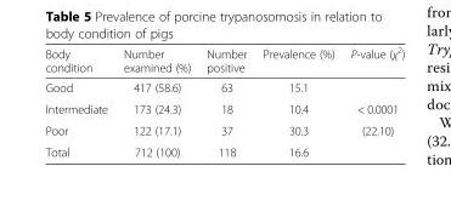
<table><thead><tr><td>Body condition</td><td>Number examined (%)</td><td>Number positive</td><td>Prevalence (%)</td><td>P-value (χ<sup>2</sup>)</td></tr></thead><tbody><tr><td>Good</td><td>417 (58.6)</td><td>63</td><td>15.1</td><td></td></tr><tr><td>Intermediate</td><td>173 (24.3)</td><td>18</td><td>10.4</td><td>&lt; 0.0001</td></tr><tr><td>Poor</td><td>122 (17.1)</td><td>37</td><td>30.3</td><td>(22.10)</td></tr><tr><td>Total</td><td>712 (100)</td><td>118</td><td>16.6</td><td></td></tr></tbody></table>